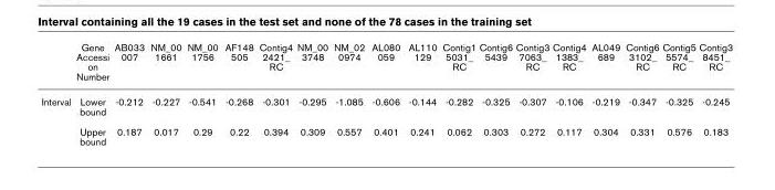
<table><thead><tr><td></td><td>Gene Accessi on Number</td><td>AB033 007</td><td>NM_00 1661</td><td>NM_00 1756</td><td>AF148 505</td><td>Contig4 2421_ RC</td><td>NM_00 3748</td><td>NM_02 0974</td><td>AL080 059</td><td>AL110 129</td><td>Contig1 5031_ RC</td><td>Contig6 5439</td><td>Contig3 7063_ RC</td><td>Contig4 1383_ RC</td><td>AL049 689</td><td>Contig6 3102_ RC</td><td>Contig5 5574_ RC</td><td>Contig3 8451_ RC</td></tr></thead><tbody><tr><td rowspan="2">Interval</td><td>Lower bound</td><td>-0.212</td><td>-0.227</td><td>-0.541</td><td>-0.268</td><td>-0.301</td><td>-0.295</td><td>-1.085</td><td>-0.606</td><td>-0.144</td><td>-0.282</td><td>-0.325</td><td>-0.307</td><td>-0.106</td><td>-0.219</td><td>-0.347</td><td>-0.325</td><td>-0.245</td></tr><tr><td>Upper bound</td><td>0.187</td><td>0.017</td><td>0.29</td><td>0.22</td><td>0.394</td><td>0.309</td><td>0.557</td><td>0.401</td><td>0.241</td><td>0.062</td><td>0.303</td><td>0.272</td><td>0.117</td><td>0.304</td><td>0.331</td><td>0.576</td><td>0.183</td></tr></tbody></table>